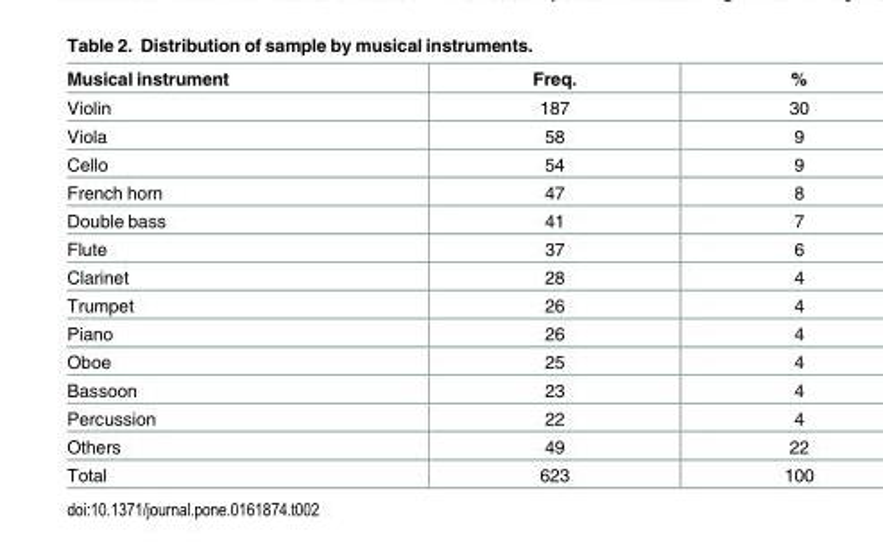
<table><thead><tr><td>Musical instrument</td><td>Freq.</td><td>%</td></tr></thead><tbody><tr><td>Violin</td><td>187</td><td>30</td></tr><tr><td>Viola</td><td>58</td><td>9</td></tr><tr><td>Cello</td><td>54</td><td>9</td></tr><tr><td>French horn</td><td>47</td><td>8</td></tr><tr><td>Double bass</td><td>41</td><td>7</td></tr><tr><td>Flute</td><td>37</td><td>6</td></tr><tr><td>Clarinet</td><td>28</td><td>4</td></tr><tr><td>Trumpet</td><td>26</td><td>4</td></tr><tr><td>Piano</td><td>26</td><td>4</td></tr><tr><td>Oboe</td><td>25</td><td>4</td></tr><tr><td>Bassoon</td><td>23</td><td>4</td></tr><tr><td>Percussion</td><td>22</td><td>4</td></tr><tr><td>Others</td><td>49</td><td>22</td></tr><tr><td>Total</td><td>623</td><td>100</td></tr></tbody></table>